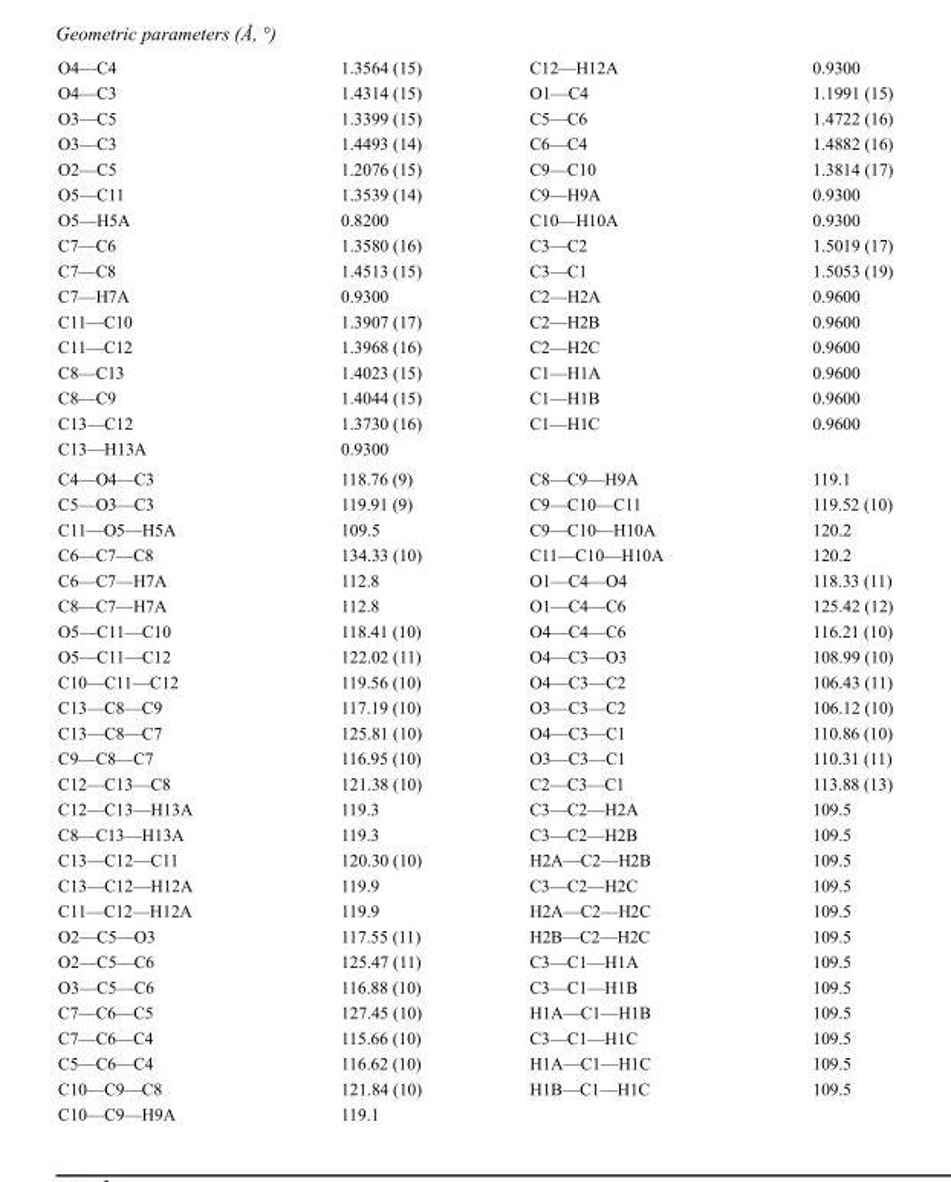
<table><tbody><tr><td>O4—C4</td><td>1.3564 (15)</td><td>C12—H12A</td><td>0.9300</td></tr><tr><td>O4—C3</td><td>1.4314 (15)</td><td>O1—C4</td><td>1.1991 (15)</td></tr><tr><td>O3—C5</td><td>1.3399 (15)</td><td>C5—C6</td><td>1.4722 (16)</td></tr><tr><td>O3—C3</td><td>1.4493 (14)</td><td>C6—C4</td><td>1.4882 (16)</td></tr><tr><td>O2—C5</td><td>1.2076 (15)</td><td>C9—C10</td><td>1.3814 (17)</td></tr><tr><td>O5—C11</td><td>1.3539 (14)</td><td>C9—H9A</td><td>0.9300</td></tr><tr><td>O5—H5A</td><td>0.8200</td><td>C10—H10A</td><td>0.9300</td></tr><tr><td>C7—C6</td><td>1.3580 (16)</td><td>C3—C2</td><td>1.5019 (17)</td></tr><tr><td>C7—C8</td><td>1.4513 (15)</td><td>C3—C1</td><td>1.5053 (19)</td></tr><tr><td>C7—H7A</td><td>0.9300</td><td>C2—H2A</td><td>0.9600</td></tr><tr><td>C11—C10</td><td>1.3907 (17)</td><td>C2—H2B</td><td>0.9600</td></tr><tr><td>C11—C12</td><td>1.3968 (16)</td><td>C2—H2C</td><td>0.9600</td></tr><tr><td>C8—C13</td><td>1.4023 (15)</td><td>C1—H1A</td><td>0.9600</td></tr><tr><td>C8—C9</td><td>1.4044 (15)</td><td>C1—H1B</td><td>0.9600</td></tr><tr><td>C13—C12</td><td>1.3730 (16)</td><td>C1—H1C</td><td>0.9600</td></tr><tr><td>C13—H13A</td><td>0.9300</td><td></td><td></td></tr><tr><td>C4—O4—C3</td><td>118.76 (9)</td><td>C8—C9—H9A</td><td>119.1</td></tr><tr><td>C5—O3—C3</td><td>119.91 (9)</td><td>C9—C10—C11</td><td>119.52 (10)</td></tr><tr><td>C11—O5—H5A</td><td>109.5</td><td>C9—C10—H10A</td><td>120.2</td></tr><tr><td>C6—C7—C8</td><td>134.33 (10)</td><td>C11—C10—H10A</td><td>120.2</td></tr><tr><td>C6—C7—H7A</td><td>112.8</td><td>O1—C4—O4</td><td>118.33 (11)</td></tr><tr><td>C8—C7—H7A</td><td>112.8</td><td>O1—C4—C6</td><td>125.42 (12)</td></tr><tr><td>O5—C11—C10</td><td>118.41 (10)</td><td>O4—C4—C6</td><td>116.21 (10)</td></tr><tr><td>O5—C11—C12</td><td>122.02 (11)</td><td>O4—C3—O3</td><td>108.99 (10)</td></tr><tr><td>C10—C11—C12</td><td>119.56 (10)</td><td>O4—C3—C2</td><td>106.43 (11)</td></tr><tr><td>C13—C8—C9</td><td>117.19 (10)</td><td>O3—C3—C2</td><td>106.12 (10)</td></tr><tr><td>C13—C8—C7</td><td>125.81 (10)</td><td>O4—C3—C1</td><td>110.86 (10)</td></tr><tr><td>C9—C8—C7</td><td>116.95 (10)</td><td>O3—C3—C1</td><td>110.31 (11)</td></tr><tr><td>C12—C13—C8</td><td>121.38 (10)</td><td>C2—C3—C1</td><td>113.88 (13)</td></tr><tr><td>C12—C13—H13A</td><td>119.3</td><td>C3—C2—H2A</td><td>109.5</td></tr><tr><td>C8—C13—H13A</td><td>119.3</td><td>C3—C2—H2B</td><td>109.5</td></tr><tr><td>C13—C12—C11</td><td>120.30 (10)</td><td>H2A—C2—H2B</td><td>109.5</td></tr><tr><td>C13—C12—H12A</td><td>119.9</td><td>C3—C2—H2C</td><td>109.5</td></tr><tr><td>C11—C12—H12A</td><td>119.9</td><td>H2A—C2—H2C</td><td>109.5</td></tr><tr><td>O2—C5—O3</td><td>117.55 (11)</td><td>H2B—C2—H2C</td><td>109.5</td></tr><tr><td>O2—C5—C6</td><td>125.47 (11)</td><td>C3—C1—H1A</td><td>109.5</td></tr><tr><td>O3—C5—C6</td><td>116.88 (10)</td><td>C3—C1—H1B</td><td>109.5</td></tr><tr><td>C7—C6—C5</td><td>127.45 (10)</td><td>H1A—C1—H1B</td><td>109.5</td></tr><tr><td>C7—C6—C4</td><td>115.66 (10)</td><td>C3—C1—H1C</td><td>109.5</td></tr><tr><td>C5—C6—C4</td><td>116.62 (10)</td><td>H1A—C1—H1C</td><td>109.5</td></tr><tr><td>C10—C9—C8</td><td>121.84 (10)</td><td>H1B—C1—H1C</td><td>109.5</td></tr><tr><td>C10—C9—H9A</td><td>119.1</td><td></td><td></td></tr></tbody></table>